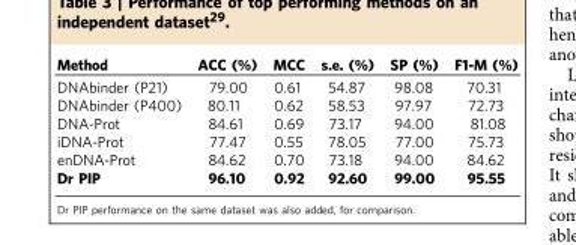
<table><thead><tr><td>Method</td><td>ACC (%)</td><td>MCC</td><td>s.e. (%)</td><td>SP (%)</td><td>F1-M (%)</td></tr></thead><tbody><tr><td>DNAbinder (P21)</td><td>79.00</td><td>0.61</td><td>54.87</td><td>98.08</td><td>70.31</td></tr><tr><td>DNAbinder (P400)</td><td>80.11</td><td>0.62</td><td>58.53</td><td>97.97</td><td>72.73</td></tr><tr><td>DNA-Prot</td><td>84.61</td><td>0.69</td><td>73.17</td><td>94.00</td><td>81.08</td></tr><tr><td>iDNA-Prot</td><td>77.47</td><td>0.55</td><td>78.05</td><td>77.00</td><td>75.73</td></tr><tr><td>enDNA-Prot</td><td>84.62</td><td>0.70</td><td>73.18</td><td>94.00</td><td>84.62</td></tr><tr><td>Dr PIP</td><td>96.10</td><td>0.92</td><td>92.60</td><td>99.00</td><td>95.55</td></tr></tbody></table>